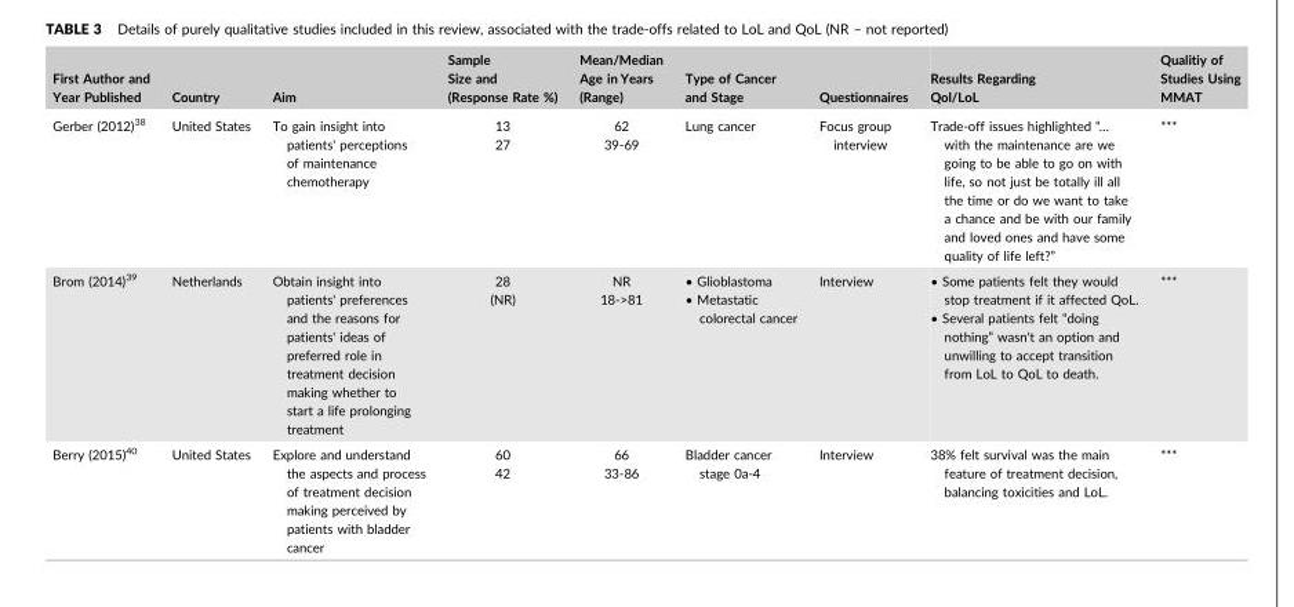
<table><thead><tr><td>First Author and Year Published</td><td>Country</td><td>Aim</td><td>Sample Size and (Response Rate %)</td><td>Mean/Median Age in Years (Range)</td><td>Type of Cancer and Stage</td><td>Questionnaires</td><td>Results Regarding Qol/LoL</td><td>Qualitiy of Studies Using MMAT</td></tr></thead><tbody><tr><td>Gerber (2012)<sup>38</sup></td><td>United States</td><td>To gain insight into patients&#x27; perceptions of maintenance chemotherapy</td><td>13 27</td><td>62 39‐69</td><td>Lung cancer</td><td>Focus group interview</td><td>Trade‐off issues highlighted “… with the maintenance are we going to be able to go on with life, so not just be totally ill all the time or do we want to take a chance and be with our family and loved ones and have some quality of life left?”</td><td>***</td></tr><tr><td>Brom (2014)<sup>39</sup></td><td>Netherlands</td><td>Obtain insight into patients&#x27; preferences and the reasons for patients&#x27; ideas of preferred role in treatment decision making whether to start a life prolonging treatment</td><td>28 (NR)</td><td>NR 18‐&gt;81</td><td>• Glioblastoma • Metastatic colorectal cancer</td><td>Interview</td><td>• Some patients felt they would stop treatment if it affected QoL. • Several patients felt “doing nothing” wasn&#x27;t an option and unwilling to accept transition from LoL to QoL to death.</td><td>***</td></tr><tr><td>Berry (2015)<sup>40</sup></td><td>United States</td><td>Explore and understand the aspects and process of treatment decision making perceived by patients with bladder cancer</td><td>60 42</td><td>66 33‐86</td><td>Bladder cancer stage 0a‐4</td><td>Interview</td><td>38% felt survival was the main feature of treatment decision, balancing toxicities and LoL.</td><td>***</td></tr></tbody></table>